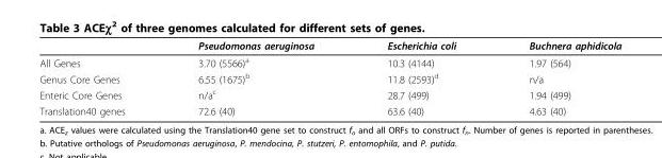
<table><thead><tr><td></td><td>Pseudomonas aeruginosa</td><td>Escherichia coli</td><td>Buchnera aphidicola</td></tr></thead><tbody><tr><td>All Genes</td><td>3.70 (5566)<sup>a</sup></td><td>10.3 (4144)</td><td>1.97 (564)</td></tr><tr><td>Genus Core Genes</td><td>6.55 (1675)<sup>b</sup></td><td>11.8 (2593)<sup>d</sup></td><td>n/a</td></tr><tr><td>Enteric Core Genes</td><td>n/a<sup>c</sup></td><td>28.7 (499)</td><td>1.94 (499)</td></tr><tr><td>Translation40 genes</td><td>72.6 (40)</td><td>63.6 (40)</td><td>4.63 (40)</td></tr></tbody></table>